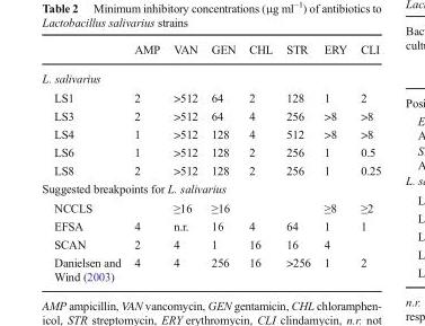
<table><thead><tr><td></td><td>AMP</td><td>VAN</td><td>GEN</td><td>CHL</td><td>STR</td><td>ERY</td><td>CLI</td></tr></thead><tbody><tr><td colspan="8">L. salivarius</td></tr><tr><td>LS1</td><td>2</td><td>&gt;512</td><td>64</td><td>2</td><td>128</td><td>1</td><td>2</td></tr><tr><td>LS3</td><td>2</td><td>&gt;512</td><td>64</td><td>4</td><td>256</td><td>&gt;8</td><td>&gt;8</td></tr><tr><td>LS4</td><td>1</td><td>&gt;512</td><td>128</td><td>4</td><td>512</td><td>&gt;8</td><td>&gt;8</td></tr><tr><td>LS6</td><td>1</td><td>&gt;512</td><td>128</td><td>2</td><td>256</td><td>1</td><td>0.5</td></tr><tr><td>LS8</td><td>2</td><td>&gt;512</td><td>128</td><td>2</td><td>256</td><td>1</td><td>0.25</td></tr><tr><td colspan="8">Suggested breakpoints for L. salivarius</td></tr><tr><td>NCCLS</td><td></td><td>≥16</td><td>≥16</td><td></td><td></td><td>≥8</td><td>≥2</td></tr><tr><td>EFSA</td><td>4</td><td>n.r.</td><td>16</td><td>4</td><td>64</td><td>1</td><td>1</td></tr><tr><td>SCAN</td><td>2</td><td>4</td><td>1</td><td>16</td><td>16</td><td>4</td><td></td></tr><tr><td>Danielsen and Wind (2003)</td><td>4</td><td>4</td><td>256</td><td>16</td><td>&gt;256</td><td>1</td><td>2</td></tr></tbody></table>